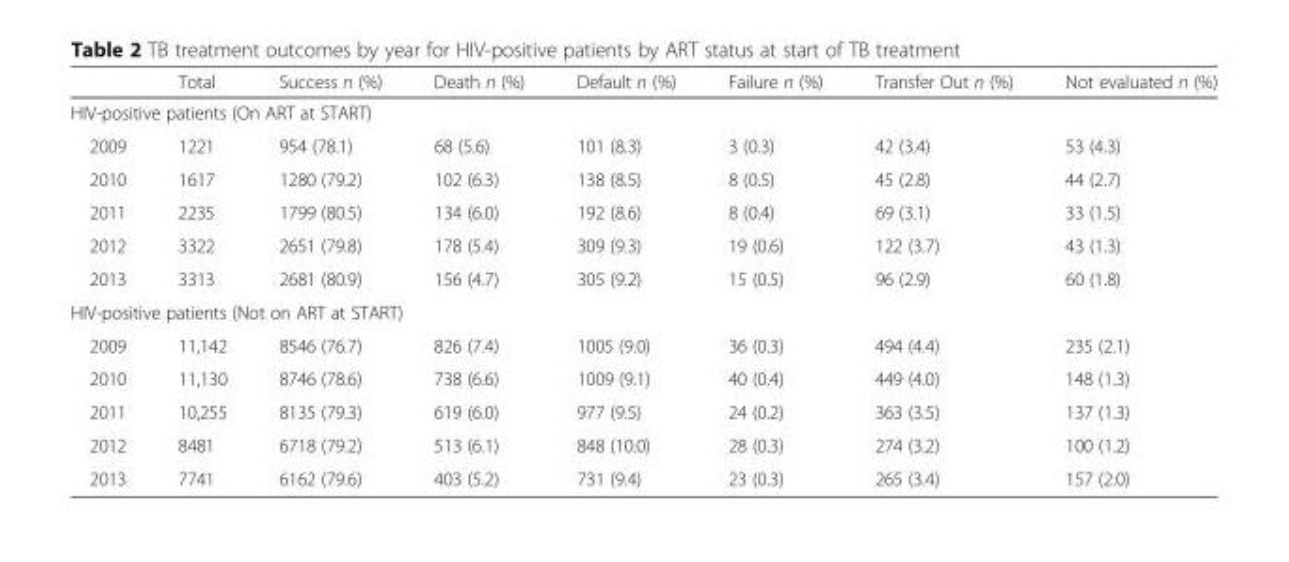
<table><thead><tr><td></td><td>Total</td><td>Success n (%)</td><td>Death n (%)</td><td>Default n (%)</td><td>Failure n (%)</td><td>Transfer Out n (%)</td><td>Not evaluated n (%)</td></tr></thead><tbody><tr><td colspan="8">HIV-positive patients (On ART at START)</td></tr><tr><td>2009</td><td>1221</td><td>954 (78.1)</td><td>68 (5.6)</td><td>101 (8.3)</td><td>3 (0.3)</td><td>42 (3.4)</td><td>53 (4.3)</td></tr><tr><td>2010</td><td>1617</td><td>1280 (79.2)</td><td>102 (6.3)</td><td>138 (8.5)</td><td>8 (0.5)</td><td>45 (2.8)</td><td>44 (2.7)</td></tr><tr><td>2011</td><td>2235</td><td>1799 (80.5)</td><td>134 (6.0)</td><td>192 (8.6)</td><td>8 (0.4)</td><td>69 (3.1)</td><td>33 (1.5)</td></tr><tr><td>2012</td><td>3322</td><td>2651 (79.8)</td><td>178 (5.4)</td><td>309 (9.3)</td><td>19 (0.6)</td><td>122 (3.7)</td><td>43 (1.3)</td></tr><tr><td>2013</td><td>3313</td><td>2681 (80.9)</td><td>156 (4.7)</td><td>305 (9.2)</td><td>15 (0.5)</td><td>96 (2.9)</td><td>60 (1.8)</td></tr><tr><td colspan="8">HIV-positive patients (Not on ART at START)</td></tr><tr><td>2009</td><td>11,142</td><td>8546 (76.7)</td><td>826 (7.4)</td><td>1005 (9.0)</td><td>36 (0.3)</td><td>494 (4.4)</td><td>235 (2.1)</td></tr><tr><td>2010</td><td>11,130</td><td>8746 (78.6)</td><td>738 (6.6)</td><td>1009 (9.1)</td><td>40 (0.4)</td><td>449 (4.0)</td><td>148 (1.3)</td></tr><tr><td>2011</td><td>10,255</td><td>8135 (79.3)</td><td>619 (6.0)</td><td>977 (9.5)</td><td>24 (0.2)</td><td>363 (3.5)</td><td>137 (1.3)</td></tr><tr><td>2012</td><td>8481</td><td>6718 (79.2)</td><td>513 (6.1)</td><td>848 (10.0)</td><td>28 (0.3)</td><td>274 (3.2)</td><td>100 (1.2)</td></tr><tr><td>2013</td><td>7741</td><td>6162 (79.6)</td><td>403 (5.2)</td><td>731 (9.4)</td><td>23 (0.3)</td><td>265 (3.4)</td><td>157 (2.0)</td></tr></tbody></table>